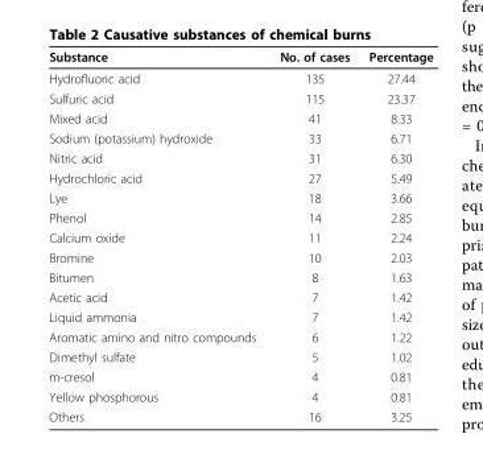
<table><thead><tr><td>Substance</td><td>No. of cases</td><td>Percentage</td></tr></thead><tbody><tr><td>Hydrofluoric acid</td><td>135</td><td>27.44</td></tr><tr><td>Sulfuric acid</td><td>115</td><td>23.37</td></tr><tr><td>Mixed acid</td><td>41</td><td>8.33</td></tr><tr><td>Sodium (potassium) hydroxide</td><td>33</td><td>6.71</td></tr><tr><td>Nitric acid</td><td>31</td><td>6.30</td></tr><tr><td>Hydrochloric acid</td><td>27</td><td>5.49</td></tr><tr><td>Lye</td><td>18</td><td>3.66</td></tr><tr><td>Phenol</td><td>14</td><td>2.85</td></tr><tr><td>Calcium oxide</td><td>11</td><td>2.24</td></tr><tr><td>Bromine</td><td>10</td><td>2.03</td></tr><tr><td>Bitumen</td><td>8</td><td>1.63</td></tr><tr><td>Acetic acid</td><td>7</td><td>1.42</td></tr><tr><td>Liquid ammonia</td><td>7</td><td>1.42</td></tr><tr><td>Aromatic amino and nitro compounds</td><td>6</td><td>1.22</td></tr><tr><td>Dimethyl sulfate</td><td>5</td><td>1.02</td></tr><tr><td>m-cresol</td><td>4</td><td>0.81</td></tr><tr><td>Yellow phosphorous</td><td>4</td><td>0.81</td></tr><tr><td>Others</td><td>16</td><td>3.25</td></tr></tbody></table>